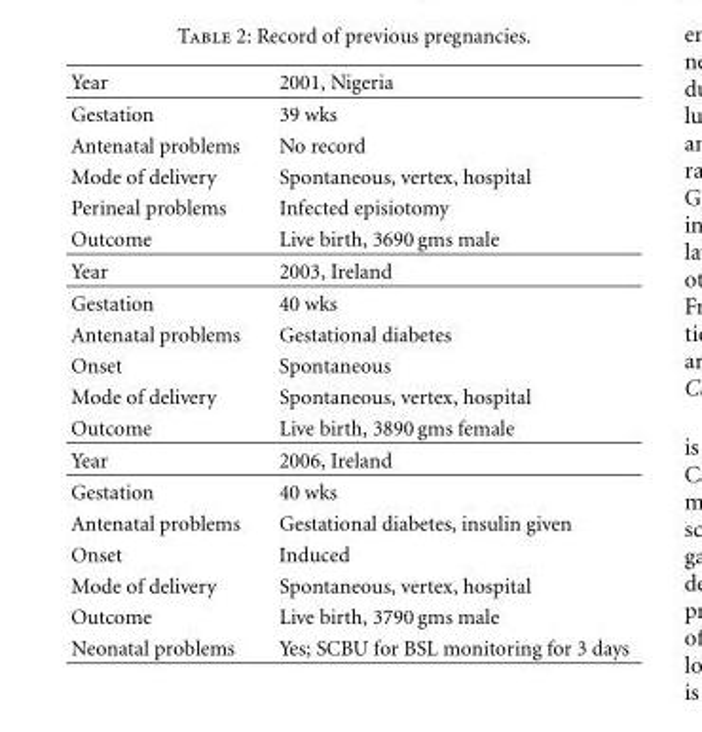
<table><thead><tr><td>Year</td><td>2001, Nigeria</td></tr></thead><tbody><tr><td>Gestation</td><td>39 wks</td></tr><tr><td>Antenatal problems</td><td>No record</td></tr><tr><td>Mode of delivery</td><td>Spontaneous, vertex, hospital</td></tr><tr><td>Perineal problems</td><td>Infected episiotomy</td></tr><tr><td>Outcome</td><td>Live birth, 3690 gms male</td></tr><tr><td>Year</td><td>2003, Ireland</td></tr><tr><td>Gestation</td><td>40 wks</td></tr><tr><td>Antenatal problems</td><td>Gestational diabetes</td></tr><tr><td>Onset</td><td>Spontaneous</td></tr><tr><td>Mode of delivery</td><td>Spontaneous, vertex, hospital</td></tr><tr><td>Outcome</td><td>Live birth, 3890 gms female</td></tr><tr><td>Year</td><td>2006, Ireland</td></tr><tr><td>Gestation</td><td>40 wks</td></tr><tr><td>Antenatal problems</td><td>Gestational diabetes, insulin given</td></tr><tr><td>Onset</td><td>Induced</td></tr><tr><td>Mode of delivery</td><td>Spontaneous, vertex, hospital</td></tr><tr><td>Outcome</td><td>Live birth, 3790 gms male</td></tr><tr><td>Neonatal problems</td><td>Yes; SCBU for BSL monitoring for 3 days</td></tr></tbody></table>